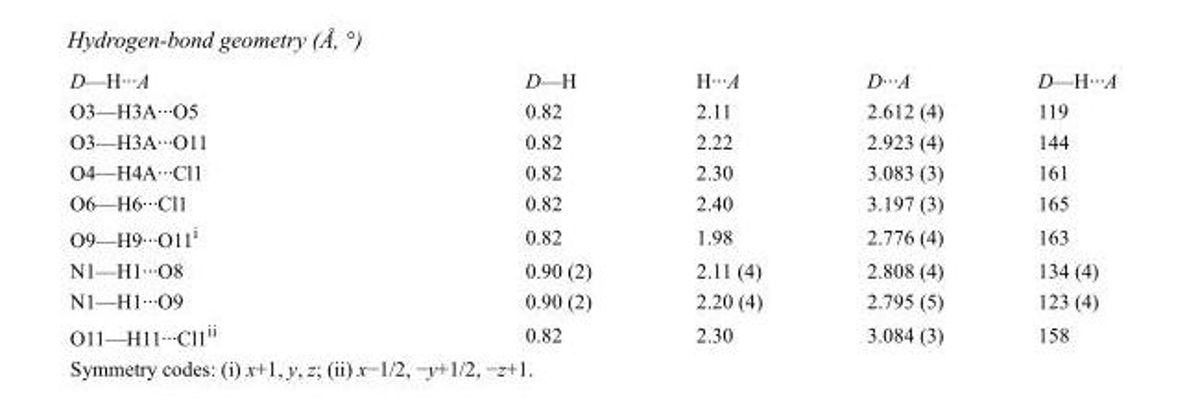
<table><tbody><tr><td>D—H···A</td><td>D—H</td><td>H···A</td><td>D···A</td><td>D—H···A</td></tr><tr><td>O3—H3A···O5</td><td>0.82</td><td>2.11</td><td>2.612 (4)</td><td>119</td></tr><tr><td>O3—H3A···O11</td><td>0.82</td><td>2.22</td><td>2.923 (4)</td><td>144</td></tr><tr><td>O4—H4A···Cl1</td><td>0.82</td><td>2.30</td><td>3.083 (3)</td><td>161</td></tr><tr><td>O6—H6···Cl1</td><td>0.82</td><td>2.40</td><td>3.197 (3)</td><td>165</td></tr><tr><td>O9—H9···O11<sup>i</sup></td><td>0.82</td><td>1.98</td><td>2.776 (4)</td><td>163</td></tr><tr><td>N1—H1···O8</td><td>0.90 (2)</td><td>2.11 (4)</td><td>2.808 (4)</td><td>134 (4)</td></tr><tr><td>N1—H1···O9</td><td>0.90 (2)</td><td>2.20 (4)</td><td>2.795 (5)</td><td>123 (4)</td></tr><tr><td>O11—H11···Cl1<sup>ii</sup></td><td>0.82</td><td>2.30</td><td>3.084 (3)</td><td>158</td></tr></tbody></table>